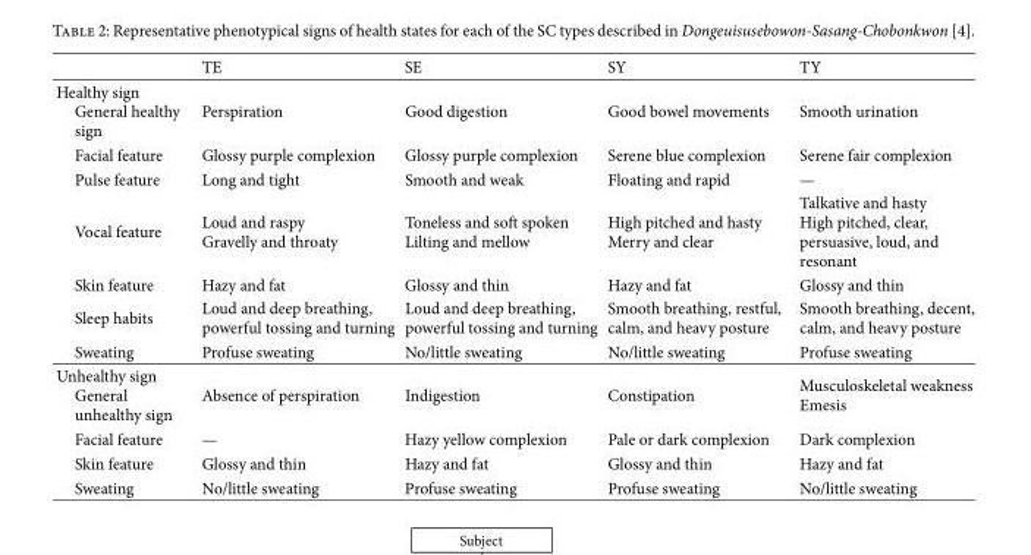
<table><thead><tr><td></td><td>TE</td><td>SE</td><td>SY</td><td>TY</td></tr></thead><tbody><tr><td>Healthy sign General healthy sign</td><td>Perspiration</td><td>Good digestion</td><td>Good bowel movements</td><td>Smooth urination</td></tr><tr><td>Facial feature</td><td>Glossy purple complexion</td><td>Glossy purple complexion</td><td>Serene blue complexion</td><td>Serene fair complexion</td></tr><tr><td>Pulse feature</td><td>Long and tight</td><td>Smooth and weak</td><td>Floating and rapid</td><td>—</td></tr><tr><td>Vocal feature</td><td>Loud and raspy Gravelly and throaty</td><td>Toneless and soft spoken Lilting and mellow</td><td>High pitched and hasty Merry and clear</td><td>Talkative and hasty High pitched, clear, persuasive, loud, and resonant</td></tr><tr><td>Skin feature</td><td>Hazy and fat</td><td>Glossy and thin</td><td>Hazy and fat</td><td>Glossy and thin</td></tr><tr><td>Sleep habits</td><td>Loud and deep breathing, powerful tossing and turning</td><td>Loud and deep breathing, powerful tossing and turning</td><td>Smooth breathing, restful, calm, and heavy posture</td><td>Smooth breathing, decent, calm, and heavy posture</td></tr><tr><td>Sweating</td><td>Profuse sweating</td><td>No/little sweating</td><td>No/little sweating</td><td>Profuse sweating</td></tr><tr><td>Unhealthy sign General unhealthy sign</td><td>Absence of perspiration</td><td>Indigestion</td><td>Constipation</td><td>Musculoskeletal weakness Emesis</td></tr><tr><td>Facial feature</td><td>—</td><td>Hazy yellow complexion</td><td>Pale or dark complexion</td><td>Dark complexion</td></tr><tr><td>Skin feature</td><td>Glossy and thin</td><td>Hazy and fat</td><td>Glossy and thin</td><td>Hazy and fat</td></tr><tr><td>Sweating</td><td>No/little sweating</td><td>Profuse sweating</td><td>Profuse sweating</td><td>No/little sweating</td></tr></tbody></table>